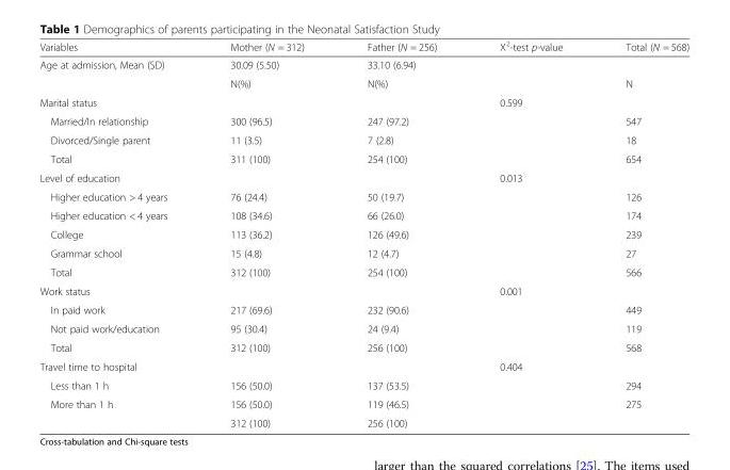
<table><thead><tr><td>Variables</td><td>Mother (N = 312)</td><td>Father (N = 256)</td><td>X<sup>2</sup>-test p-value</td><td>Total (N = 568)</td></tr></thead><tbody><tr><td rowspan="2">Age at admission, Mean (SD)</td><td>30.09 (5.50)</td><td>33.10 (6.94)</td><td></td><td></td></tr><tr><td>N(%)</td><td>N(%)</td><td></td><td>N</td></tr><tr><td>Marital status</td><td></td><td></td><td>0.599</td><td></td></tr><tr><td>Married/In relationship</td><td>300 (96.5)</td><td>247 (97.2)</td><td></td><td>547</td></tr><tr><td>Divorced/Single parent</td><td>11 (3.5)</td><td>7 (2.8)</td><td></td><td>18</td></tr><tr><td>Total</td><td>311 (100)</td><td>254 (100)</td><td></td><td>654</td></tr><tr><td>Level of education</td><td></td><td></td><td>0.013</td><td></td></tr><tr><td>Higher education &gt; 4 years</td><td>76 (24.4)</td><td>50 (19.7)</td><td></td><td>126</td></tr><tr><td>Higher education &lt; 4 years</td><td>108 (34.6)</td><td>66 (26.0)</td><td></td><td>174</td></tr><tr><td>College</td><td>113 (36.2)</td><td>126 (49.6)</td><td></td><td>239</td></tr><tr><td>Grammar school</td><td>15 (4.8)</td><td>12 (4.7)</td><td></td><td>27</td></tr><tr><td>Total</td><td>312 (100)</td><td>254 (100)</td><td></td><td>566</td></tr><tr><td>Work status</td><td></td><td></td><td>0.001</td><td></td></tr><tr><td>In paid work</td><td>217 (69.6)</td><td>232 (90.6)</td><td></td><td>449</td></tr><tr><td>Not paid work/education</td><td>95 (30.4)</td><td>24 (9.4)</td><td></td><td>119</td></tr><tr><td>Total</td><td>312 (100)</td><td>256 (100)</td><td></td><td>568</td></tr><tr><td>Travel time to hospital</td><td></td><td></td><td>0.404</td><td></td></tr><tr><td>Less than 1 h</td><td>156 (50.0)</td><td>137 (53.5)</td><td></td><td>294</td></tr><tr><td rowspan="2">More than 1 h</td><td>156 (50.0)</td><td>119 (46.5)</td><td></td><td>275</td></tr><tr><td>312 (100)</td><td>256 (100)</td><td></td><td></td></tr></tbody></table>